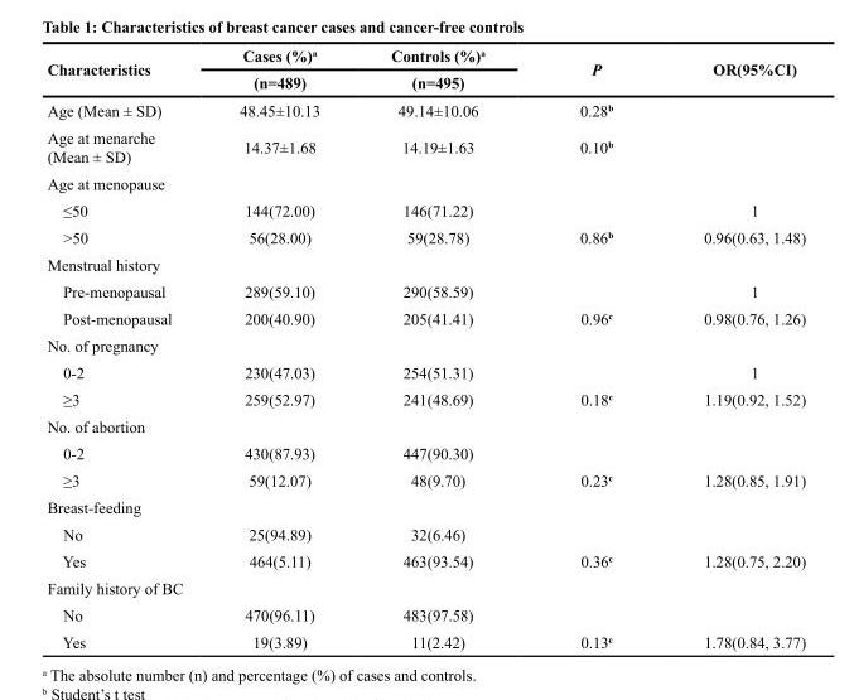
<table><thead><tr><td rowspan="2">Characteristics</td><td rowspan="2">Cases (%)<sup>a</sup> (n=489)</td><td rowspan="2">Controls (%)<sup>a</sup> (n=495)</td><td rowspan="2">P</td><td rowspan="2">OR(95%CI)</td></tr><tr></tr></thead><tbody><tr><td>Age (Mean ± SD)</td><td>48.45±10.13</td><td>49.14±10.06</td><td>0.28<sup>b</sup></td><td></td></tr><tr><td>Age at menarche (Mean ± SD)</td><td>14.37±1.68</td><td>14.19±1.63</td><td>0.10<sup>b</sup></td><td></td></tr><tr><td colspan="5">Age at menopause</td></tr><tr><td>≤50</td><td>144(72.00)</td><td>146(71.22)</td><td></td><td>1</td></tr><tr><td>&gt;50</td><td>56(28.00)</td><td>59(28.78)</td><td>0.86<sup>b</sup></td><td>0.96(0.63, 1.48)</td></tr><tr><td colspan="5">Menstrual history</td></tr><tr><td>Pre-menopausal</td><td>289(59.10)</td><td>290(58.59)</td><td></td><td>1</td></tr><tr><td>Post-menopausal</td><td>200(40.90)</td><td>205(41.41)</td><td>0.96<sup>c</sup></td><td>0.98(0.76, 1.26)</td></tr><tr><td colspan="5">No. of pregnancy</td></tr><tr><td>0-2</td><td>230(47.03)</td><td>254(51.31)</td><td></td><td>1</td></tr><tr><td>≥3</td><td>259(52.97)</td><td>241(48.69)</td><td>0.18<sup>c</sup></td><td>1.19(0.92, 1.52)</td></tr><tr><td colspan="5">No. of abortion</td></tr><tr><td>0-2</td><td>430(87.93)</td><td>447(90.30)</td><td></td><td></td></tr><tr><td>≥3</td><td>59(12.07)</td><td>48(9.70)</td><td>0.23<sup>c</sup></td><td>1.28(0.85, 1.91)</td></tr><tr><td colspan="5">Breast-feeding</td></tr><tr><td>No</td><td>25(94.89)</td><td>32(6.46)</td><td></td><td></td></tr><tr><td>Yes</td><td>464(5.11)</td><td>463(93.54)</td><td>0.36<sup>c</sup></td><td>1.28(0.75, 2.20)</td></tr><tr><td colspan="5">Family history of BC</td></tr><tr><td>No</td><td>470(96.11)</td><td>483(97.58)</td><td></td><td></td></tr><tr><td>Yes</td><td>19(3.89)</td><td>11(2.42)</td><td>0.13<sup>c</sup></td><td>1.78(0.84, 3.77)</td></tr></tbody></table>